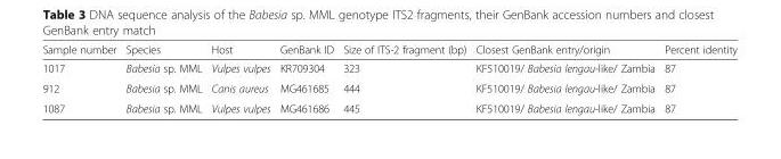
<table><thead><tr><td>Sample number</td><td>Species</td><td>Host</td><td>GenBank ID</td><td>Size of ITS-2 fragment (bp)</td><td>Closest GenBank entry/origin</td><td>Percent identity</td></tr></thead><tbody><tr><td>1017</td><td>Babesia sp. MML</td><td>Vulpes vulpes</td><td>KR709304</td><td>323</td><td>KF510019/ Babesia lengau-like/ Zambia</td><td>87</td></tr><tr><td>912</td><td>Babesia sp. MML</td><td>Canis aureus</td><td>MG461685</td><td>444</td><td>KF510019/ Babesia lengau-like/ Zambia</td><td>87</td></tr><tr><td>1087</td><td>Babesia sp. MML</td><td>Vulpes vulpes</td><td>MG461686</td><td>445</td><td>KF510019/ Babesia lengau-like/ Zambia</td><td>87</td></tr></tbody></table>